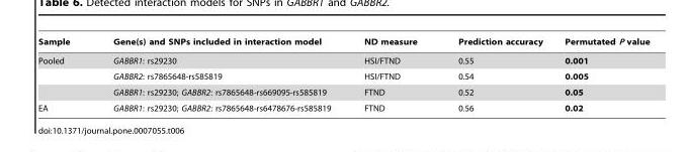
<table><thead><tr><td>Sample</td><td>Gene(s) and SNPs included in interaction model</td><td>ND measure</td><td>Prediction accuracy</td><td>Permutated P value</td></tr></thead><tbody><tr><td rowspan="3">Pooled</td><td>GABBR1: rs29230</td><td>HSI/FTND</td><td>0.55</td><td>0.001</td></tr><tr><td>GABBR2: rs7865648-rs585819</td><td>HSI/FTND</td><td>0.54</td><td>0.005</td></tr><tr><td>GABBR1: rs29230; GABBR2: rs7865648-rs669095-rs585819</td><td>FTND</td><td>0.52</td><td>0.05</td></tr><tr><td>EA</td><td>GABBR1: rs29230; GABBR2: rs7865648-rs6478676-rs585819</td><td>FTND</td><td>0.56</td><td>0.02</td></tr></tbody></table>